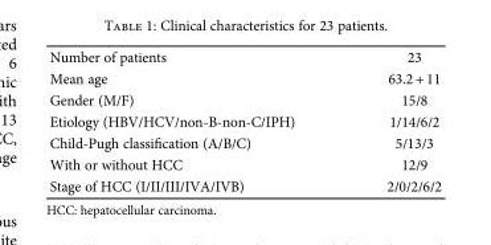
<table><tbody><tr><td>Number of patients</td><td>23</td></tr><tr><td>Mean age</td><td>63.2 + 11</td></tr><tr><td>Gender (M/F)</td><td>15/8</td></tr><tr><td>Etiology (HBV/HCV/non-B-non-C/IPH)</td><td>1/14/6/2</td></tr><tr><td>Child-Pugh classification (A/B/C)</td><td>5/13/3</td></tr><tr><td>With or without HCC</td><td>12/9</td></tr><tr><td>Stage of HCC (I/II/III/IVA/IVB)</td><td>2/0/2/6/2</td></tr></tbody></table>